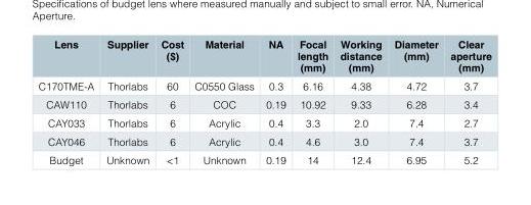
<table><thead><tr><td>Lens</td><td>Supplier</td><td>Cost ($)</td><td>Material</td><td>NA</td><td>Focal length (mm)</td><td>Working distance (mm)</td><td>Diameter (mm)</td><td>Clear aperture (mm)</td></tr></thead><tbody><tr><td>C170TME-A</td><td>Thorlabs</td><td>60</td><td>C0550 Glass</td><td>0.3</td><td>6.16</td><td>4.38</td><td>4.72</td><td>3.7</td></tr><tr><td>CAW110</td><td>Thorlabs</td><td>6</td><td>COC</td><td>0.19</td><td>10.92</td><td>9.33</td><td>6.28</td><td>3.4</td></tr><tr><td>CAY033</td><td>Thorlabs</td><td>6</td><td>Acrylic</td><td>0.4</td><td>3.3</td><td>2.0</td><td>7.4</td><td>2.7</td></tr><tr><td>CAY046</td><td>Thorlabs</td><td>6</td><td>Acrylic</td><td>0.4</td><td>4.6</td><td>3.0</td><td>7.4</td><td>3.7</td></tr><tr><td>Budget</td><td>Unknown</td><td>&lt;1</td><td>Unknown</td><td>0.19</td><td>14</td><td>12.4</td><td>6.95</td><td>5.2</td></tr></tbody></table>